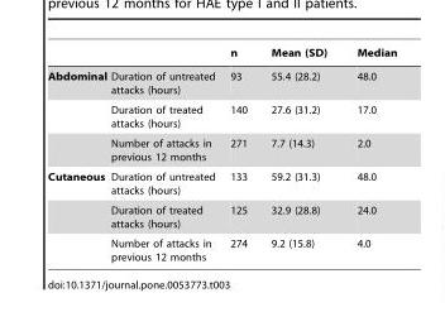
<table><thead><tr><td></td><td></td><td>n</td><td>Mean (SD)</td><td>Median</td></tr></thead><tbody><tr><td rowspan="3">Abdominal</td><td>Duration of untreated attacks (hours)</td><td>93</td><td>55.4 (28.2)</td><td>48.0</td></tr><tr><td>Duration of treated attacks (hours)</td><td>140</td><td>27.6 (31.2)</td><td>17.0</td></tr><tr><td>Number of attacks in previous 12 months</td><td>271</td><td>7.7 (14.3)</td><td>2.0</td></tr><tr><td rowspan="3">Cutaneous</td><td>Duration of untreated attacks (hours)</td><td>133</td><td>59.2 (31.3)</td><td>48.0</td></tr><tr><td>Duration of treated attacks (hours)</td><td>125</td><td>32.9 (28.8)</td><td>24.0</td></tr><tr><td>Number of attacks in previous 12 months</td><td>274</td><td>9.2 (15.8)</td><td>4.0</td></tr></tbody></table>